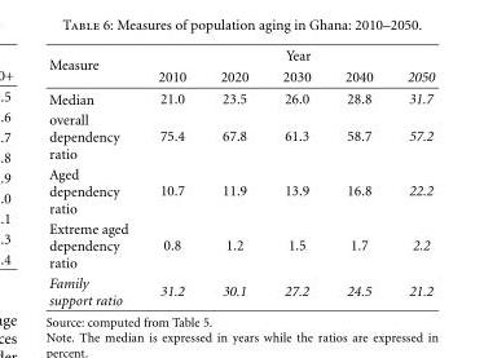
<table><thead><tr><td rowspan="2">Measure</td><td colspan="5">Year</td></tr><tr><td>2010</td><td>2020</td><td>2030</td><td>2040</td><td>2050</td></tr></thead><tbody><tr><td>Median</td><td>21.0</td><td>23.5</td><td>26.0</td><td>28.8</td><td>31.7</td></tr><tr><td>overall dependency ratio</td><td>75.4</td><td>67.8</td><td>61.3</td><td>58.7</td><td>57.2</td></tr><tr><td>Aged dependency ratio</td><td>10.7</td><td>11.9</td><td>13.9</td><td>16.8</td><td>22.2</td></tr><tr><td>Extreme aged dependency ratio</td><td>0.8</td><td>1.2</td><td>1.5</td><td>1.7</td><td>2.2</td></tr><tr><td>Family support ratio</td><td>31.2</td><td>30.1</td><td>27.2</td><td>24.5</td><td>21.2</td></tr></tbody></table>